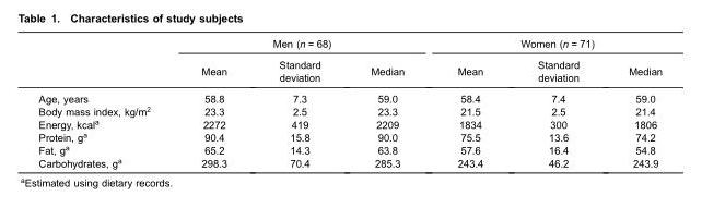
<table><thead><tr><td rowspan="2"></td><td colspan="3">Men (n = 68)</td><td colspan="3">Women (n = 71)</td></tr><tr><td>Mean</td><td>Standard deviation</td><td>Median</td><td>Mean</td><td>Standard deviation</td><td>Median</td></tr></thead><tbody><tr><td>Age, years</td><td>58.8</td><td>7.3</td><td>59.0</td><td>58.4</td><td>7.4</td><td>59.0</td></tr><tr><td>Body mass index, kg/m<sup>2</sup></td><td>23.3</td><td>2.5</td><td>23.3</td><td>21.5</td><td>2.5</td><td>21.4</td></tr><tr><td>Energy, kcal<sup>a</sup></td><td>2272</td><td>419</td><td>2209</td><td>1834</td><td>300</td><td>1806</td></tr><tr><td>Protein, g<sup>a</sup></td><td>90.4</td><td>15.8</td><td>90.0</td><td>75.5</td><td>13.6</td><td>74.2</td></tr><tr><td>Fat, g<sup>a</sup></td><td>65.2</td><td>14.3</td><td>63.8</td><td>57.6</td><td>16.4</td><td>54.8</td></tr><tr><td>Carbohydrates, g<sup>a</sup></td><td>298.3</td><td>70.4</td><td>285.3</td><td>243.4</td><td>46.2</td><td>243.9</td></tr></tbody></table>